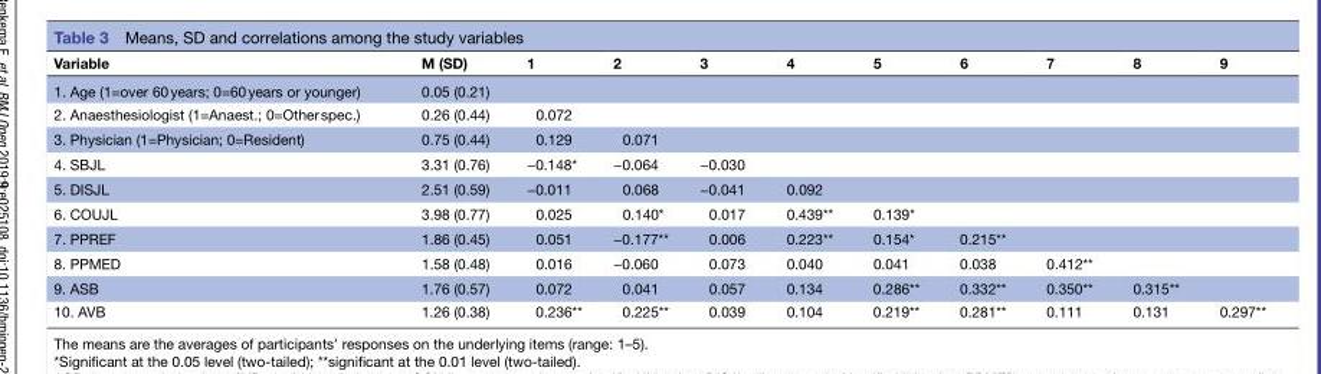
<table><thead><tr><td>Variable</td><td>M (SD)</td><td>1</td><td>2</td><td>3</td><td>4</td><td>5</td><td>6</td><td>7</td><td>8</td><td>9</td></tr></thead><tbody><tr><td>1. Age (1=over 60 years; 0=60 years or younger)</td><td>0.05 (0.21)</td><td></td><td></td><td></td><td></td><td></td><td></td><td></td><td></td><td></td></tr><tr><td>2. Anaesthesiologist (1=Anaest.; 0=Other spec.)</td><td>0.26 (0.44)</td><td>0.072</td><td></td><td></td><td></td><td></td><td></td><td></td><td></td><td></td></tr><tr><td>3. Physician (1=Physician; 0=Resident)</td><td>0.75 (0.44)</td><td>0.129</td><td>0.071</td><td></td><td></td><td></td><td></td><td></td><td></td><td></td></tr><tr><td>4. SBJL</td><td>3.31 (0.76)</td><td>−0.148*</td><td>−0.064</td><td>−0.030</td><td></td><td></td><td></td><td></td><td></td><td></td></tr><tr><td>5. DISJL</td><td>2.51 (0.59)</td><td>−0.011</td><td>0.068</td><td>−0.041</td><td>0.092</td><td></td><td></td><td></td><td></td><td></td></tr><tr><td>6. COUJL</td><td>3.98 (0.77)</td><td>0.025</td><td>0.140*</td><td>0.017</td><td>0.439**</td><td>0.139*</td><td></td><td></td><td></td><td></td></tr><tr><td>7. PPREF</td><td>1.86 (0.45)</td><td>0.051</td><td>−0.177**</td><td>0.006</td><td>0.223**</td><td>0.154*</td><td>0.215**</td><td></td><td></td><td></td></tr><tr><td>8. PPMED</td><td>1.58 (0.48)</td><td>0.016</td><td>−0.060</td><td>0.073</td><td>0.040</td><td>0.041</td><td>0.038</td><td>0.412**</td><td></td><td></td></tr><tr><td>9. ASB</td><td>1.76 (0.57)</td><td>0.072</td><td>0.041</td><td>0.057</td><td>0.134</td><td>0.286**</td><td>0.332**</td><td>0.350**</td><td>0.315**</td><td></td></tr><tr><td>10. AVB</td><td>1.26 (0.38)</td><td>0.236**</td><td>0.225**</td><td>0.039</td><td>0.104</td><td>0.219**</td><td>0.281**</td><td>0.111</td><td>0.131</td><td>0.297**</td></tr></tbody></table>